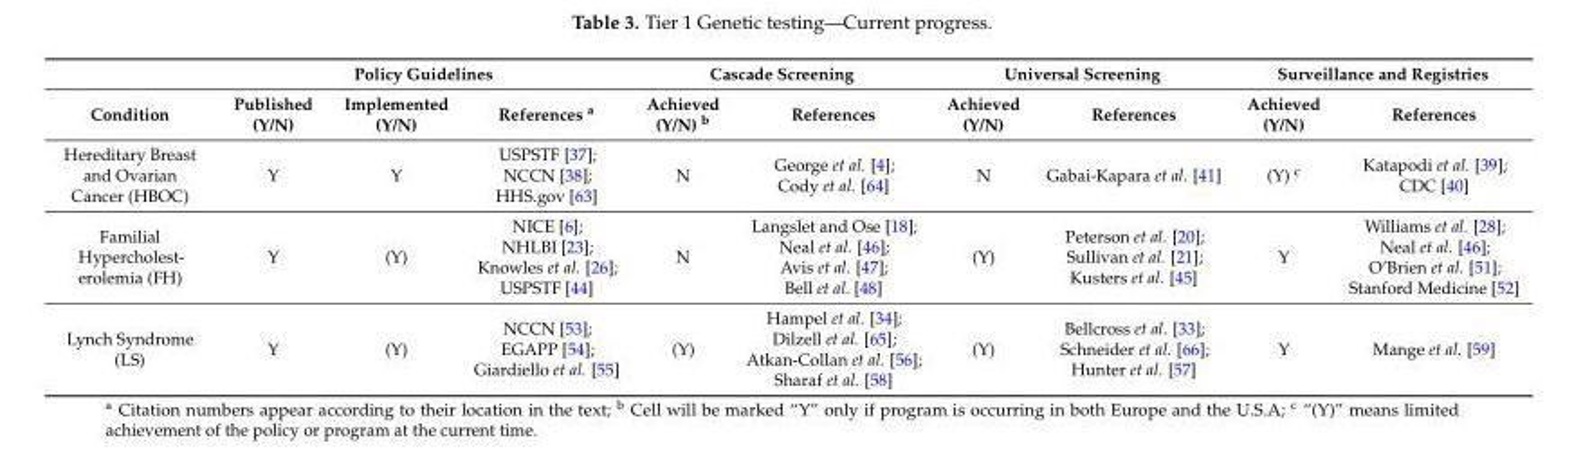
<table><thead><tr><td rowspan="2">Condition</td><td colspan="3">Policy Guidelines</td><td colspan="2">Cascade Screening</td><td colspan="2">Universal Screening</td><td colspan="2">Surveillance and Registries</td></tr><tr><td>Published (Y/N)</td><td>Implemented (Y/N)</td><td>References <sup>a</sup></td><td>Achieved (Y/N) <sup>b</sup></td><td>References</td><td>Achieved (Y/N)</td><td>References</td><td>Achieved (Y/N)</td><td>References</td></tr></thead><tbody><tr><td>Hereditary Breast and Ovarian Cancer (HBOC)</td><td>Y</td><td>Y</td><td>USPSTF [37]; NCCN [38]; HHS.gov [63]</td><td>N</td><td>George et al. [4]; Cody et al. [64]</td><td>N</td><td>Gabai-Kapara et al. [41]</td><td>(Y) <sup>c</sup></td><td>Katapodi et al. [39]; CDC [40]</td></tr><tr><td>Familial Hypercholest- erolemia (FH)</td><td>Y</td><td>(Y)</td><td>NICE [6]; NHLBI [23]; Knowles et al. [26]; USPSTF [44]</td><td>N</td><td>Langslet and Ose [18]; Neal et al. [46]; Avis et al. [47]; Bell et al. [48]</td><td>(Y)</td><td>Peterson et al. [20]; Sullivan et al. [21]; Kusters et al. [45]</td><td>Y</td><td>Williams et al. [28]; Neal et al. [46]; O’Brien et al. [51]; Stanford Medicine [52]</td></tr><tr><td>Lynch Syndrome (LS)</td><td>Y</td><td>(Y)</td><td>NCCN [53]; EGAPP [54]; Giardiello et al. [55]</td><td>(Y)</td><td>Hampel et al. [34]; Dilzell et al. [65]; Atkan-Collan et al. [56]; Sharaf et al. [58]</td><td>(Y)</td><td>Bellcross et al. [33]; Schneider et al. [66]; Hunter et al. [57]</td><td>Y</td><td>Mange et al. [59]</td></tr></tbody></table>